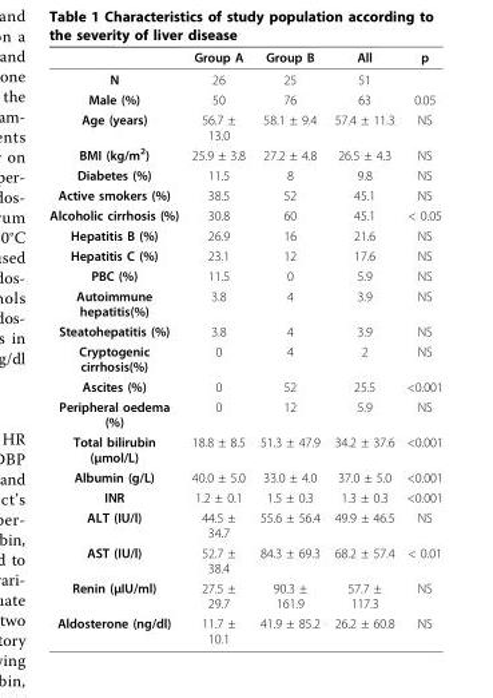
<table><thead><tr><td></td><td>Group A</td><td>Group B</td><td>All</td><td>p</td></tr></thead><tbody><tr><td>N</td><td>26</td><td>25</td><td>51</td><td></td></tr><tr><td>Male (%)</td><td>50</td><td>76</td><td>63</td><td>0.05</td></tr><tr><td>Age (years)</td><td>56.7 ± 13.0</td><td>58.1 ± 9.4</td><td>57.4 ± 11.3</td><td>NS</td></tr><tr><td>BMI (kg/m<sup>2</sup>)</td><td>25.9 ± 3.8</td><td>27.2 ± 4.8</td><td>26.5 ± 4.3</td><td>NS</td></tr><tr><td>Diabetes (%)</td><td>11.5</td><td>8</td><td>9.8</td><td>NS</td></tr><tr><td>Active smokers (%)</td><td>38.5</td><td>52</td><td>45.1</td><td>NS</td></tr><tr><td>Alcoholic cirrhosis (%)</td><td>30.8</td><td>60</td><td>45.1</td><td>&lt; 0.05</td></tr><tr><td>Hepatitis B (%)</td><td>26.9</td><td>16</td><td>21.6</td><td>NS</td></tr><tr><td>Hepatitis C (%)</td><td>23.1</td><td>12</td><td>17.6</td><td>NS</td></tr><tr><td>PBC (%)</td><td>11.5</td><td>0</td><td>5.9</td><td>NS</td></tr><tr><td>Autoimmune hepatitis(%)</td><td>3.8</td><td>4</td><td>3.9</td><td>NS</td></tr><tr><td>Steatohepatitis (%)</td><td>3.8</td><td>4</td><td>3.9</td><td>NS</td></tr><tr><td>Cryptogenic cirrhosis(%)</td><td>0</td><td>4</td><td>2</td><td>NS</td></tr><tr><td>Ascites (%)</td><td>0</td><td>52</td><td>25.5</td><td>&lt;0.001</td></tr><tr><td>Peripheral oedema (%)</td><td>0</td><td>12</td><td>5.9</td><td>NS</td></tr><tr><td>Total bilirubin (μmol/L)</td><td>18.8 ± 8.5</td><td>51.3 ± 47.9</td><td>34.2 ± 37.6</td><td>&lt;0.001</td></tr><tr><td>Albumin (g/L)</td><td>40.0 ± 5.0</td><td>33.0 ± 4.0</td><td>37.0 ± 5.0</td><td>&lt;0.001</td></tr><tr><td>INR</td><td>1.2 ± 0.1</td><td>1.5 ± 0.3</td><td>1.3 ± 0.3</td><td>&lt;0.001</td></tr><tr><td>ALT (IU/l)</td><td>44.5 ± 34.7</td><td>55.6 ± 56.4</td><td>49.9 ± 46.5</td><td>NS</td></tr><tr><td>AST (IU/l)</td><td>52.7 ± 38.4</td><td>84.3 ± 69.3</td><td>68.2 ± 57.4</td><td>&lt; 0.01</td></tr><tr><td>Renin (μIU/ml)</td><td>27.5 ± 29.7</td><td>90.3 ± 161.9</td><td>57.7 ± 117.3</td><td>NS</td></tr><tr><td>Aldosterone (ng/dl)</td><td>11.7 ± 10.1</td><td>41.9 ± 85.2</td><td>26.2 ± 60.8</td><td>NS</td></tr></tbody></table>